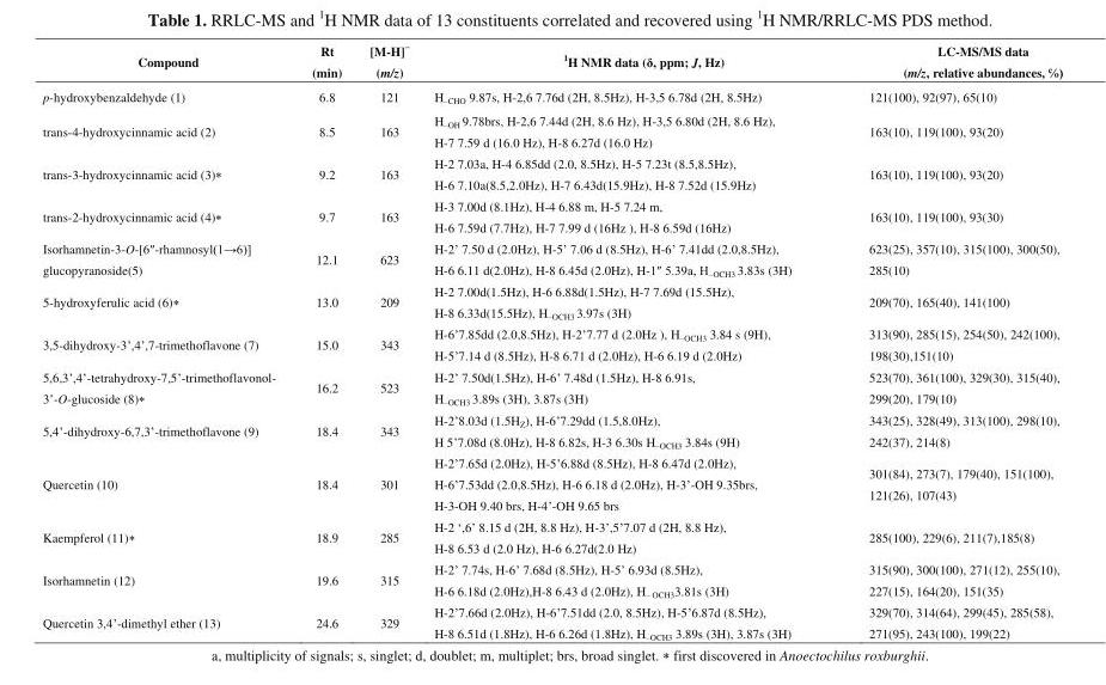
<table><thead><tr><td>Compound</td><td>Rt (min)</td><td>[M-H]<sup>−</sup> (m/z)</td><td><sup>1</sup>H NMR data (δ, ppm; J, Hz)</td><td>LC-MS/MS data (m/z, relative abundances, ℅)</td></tr></thead><tbody><tr><td>p-hydroxybenzaldehyde (1)</td><td>6.8</td><td>121</td><td>H<sub>–CHO</sub> 9.87s, H-2,6 7.76d (2H, 8.5Hz), H-3,5 6.78d (2H, 8.5Hz)</td><td>121(100), 92(97), 65(10)</td></tr><tr><td>trans-4-hydroxycinnamic acid (2)</td><td>8.5</td><td>163</td><td>H<sub>–OH</sub> 9.78brs, H-2,6 7.44d (2H, 8.6 Hz), H-3,5 6.80d (2H, 8.6 Hz), H-7 7.59 d (16.0 Hz), H-8 6.27d (16.0 Hz)</td><td>163(10), 119(100), 93(20)</td></tr><tr><td>trans-3-hydroxycinnamic acid (3)*</td><td>9.2</td><td>163</td><td>H-2 7.03a, H-4 6.85dd (2.0, 8.5Hz), H-5 7.23t (8.5,8.5Hz), H-6 7.10a(8.5,2.0Hz), H-7 6.43d(15.9Hz), H-8 7.52d (15.9Hz)</td><td>163(10), 119(100), 93(20)</td></tr><tr><td>trans-2-hydroxycinnamic acid (4)*</td><td>9.7</td><td>163</td><td>H-3 7.00d (8.1Hz), H-4 6.88 m, H-5 7.24 m, H-6 7.59d (7.7Hz), H-7 7.99 d (16Hz ), H-8 6.59d (16Hz)</td><td>163(10), 119(100), 93(30)</td></tr><tr><td>Isorhamnetin-3-O-[6″-rhamnosyl(1→6)] glucopyranoside(5)</td><td>12.1</td><td>623</td><td>H-2‟ 7.50 d (2.0Hz), H-5‟ 7.06 d (8.5Hz), H-6‟ 7.41dd (2.0,8.5Hz), H-6 6.11 d(2.0Hz), H-8 6.45d (2.0Hz), H-1″ 5.39a, H–OCH3 3.83s (3H)</td><td>623(25), 357(10), 315(100), 300(50), 285(10)</td></tr><tr><td>5-hydroxyferulic acid (6)*</td><td>13.0</td><td>209</td><td>H-2 7.00d(1.5Hz), H-6 6.88d(1.5Hz), H-7 7.69d (15.5Hz), H-8 6.33d(15.5Hz), H<sub>–OCH3</sub> 3.97s (3H)</td><td>209(70), 165(40), 141(100)</td></tr><tr><td>3,5-dihydroxy-3‟,4‟,7-trimethoflavone (7)</td><td>15.0</td><td>343</td><td>H-6‟7.85dd (2.0,8.5Hz), H-2‟7.77 d (2.0Hz ), H–OCH3 3.84 s (9H), H-5‟7.14 d (8.5Hz), H-8 6.71 d (2.0Hz), H-6 6.19 d (2.0Hz)</td><td>313(90), 285(15), 254(50), 242(100), 198(30),151(10)</td></tr><tr><td>5,6,3‟,4‟-tetrahydroxy-7,5‟-trimethoflavonol- 3‟-O-glucoside (8)</td><td>16.2</td><td>523</td><td>H-2‟ 7.50d(1.5Hz), H-6‟ 7.48d (1.5Hz), H-8 6.91s, H–OCH3 3.89s (3H), 3.87s (3H)</td><td>523(70), 361(100), 329(30), 315(40), 299(20), 179(10)</td></tr><tr><td>5,4‟-dihydroxy-6,7,3‟-trimethoflavone (9)</td><td>18.4</td><td>343</td><td>H-2‟8.03d (1.5HZ), H-6‟7.29dd (1.5,8.0Hz), H 5‟7.08d (8.0Hz), H-8 6.82s, H-3 6.30s H–OCH3 3.84s (9H)</td><td>343(25), 328(49), 313(100), 298(10), 242(37), 214(8)</td></tr><tr><td>Quercetin (10)</td><td>18.4</td><td>301</td><td>H-2‟7.65d (2.0Hz), H-5‟6.88d (8.5Hz), H-8 6.47d (2.0Hz), H-6‟7.53dd (2.0,8.5Hz), H-6 6.18 d (2.0Hz), H-3‟-OH 9.35brs, H-3-OH 9.40 brs, H-4‟-OH 9.65 brs</td><td>301(84), 273(7), 179(40), 151(100), 121(26), 107(43)</td></tr><tr><td>Kaempferol (11)*</td><td>18.9</td><td>285</td><td>H-2 „,6‟ 8.15 d (2H, 8.8 Hz), H-3‟,5‟7.07 d (2H, 8.8 Hz), H-8 6.53 d (2.0 Hz), H-6 6.27d(2.0 Hz)</td><td>285(100), 229(6), 211(7),185(8)</td></tr><tr><td>Isorhamnetin (12)</td><td>19.6</td><td>315</td><td>H-2‟ 7.74s, H-6‟ 7.68d (8.5Hz), H-5‟ 6.93d (8.5Hz), H-6 6.18d (2.0Hz),H-8 6.43 d (2.0Hz), H– OCH33.81s (3H)</td><td>315(90), 300(100), 271(12), 255(10), 227(15), 164(20), 151(35)</td></tr><tr><td>Quercetin 3,4‟-dimethyl ether (13)</td><td>24.6</td><td>329</td><td>H-2‟7.66d (2.0Hz), H-6‟7.51dd (2.0, 8.5Hz), H-5‟6.87d (8.5Hz), H-8 6.51d (1.8Hz), H-6 6.26d (1.8Hz), H–OCH3 3.89s (3H), 3.87s (3H)</td><td>329(70), 314(64), 299(45), 285(58), 271(95), 243(100), 199(22)</td></tr></tbody></table>